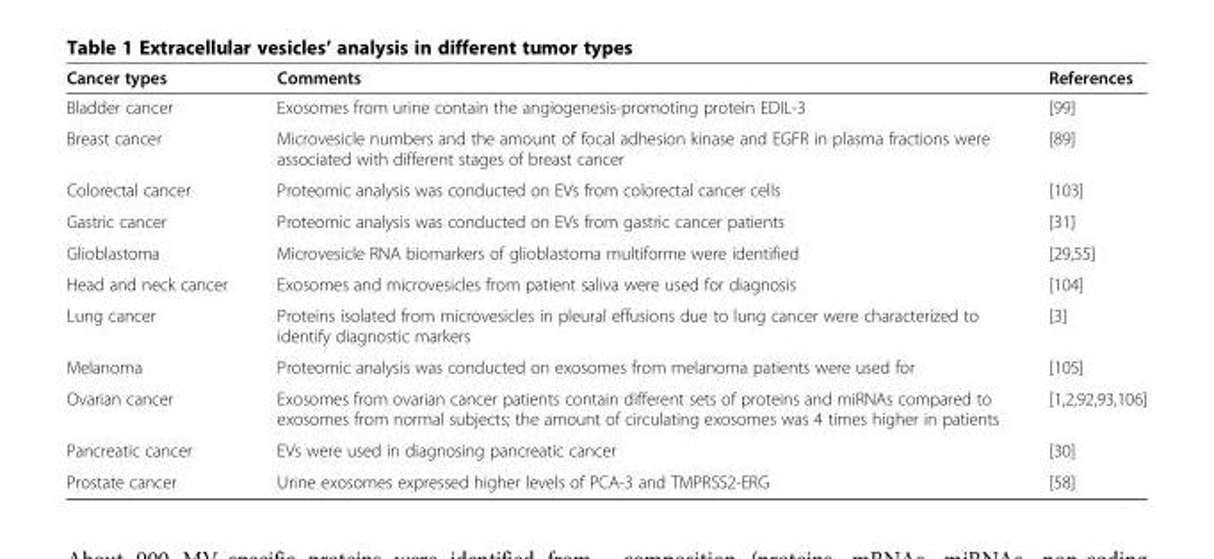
<table><thead><tr><td>Cancer types</td><td>Comments</td><td>References</td></tr></thead><tbody><tr><td>Bladder cancer</td><td>Exosomes from urine contain the angiogenesis-promoting protein EDIL-3</td><td>[99]</td></tr><tr><td>Breast cancer</td><td>Microvesicle numbers and the amount of focal adhesion kinase and EGFR in plasma fractions were associated with different stages of breast cancer</td><td>[89]</td></tr><tr><td>Colorectal cancer</td><td>Proteomic analysis was conducted on EVs from colorectal cancer cells</td><td>[103]</td></tr><tr><td>Gastric cancer</td><td>Proteomic analysis was conducted on EVs from gastric cancer patients</td><td>[31]</td></tr><tr><td>Glioblastoma</td><td>Microvesicle RNA biomarkers of glioblastoma multiforme were identified</td><td>[29,55]</td></tr><tr><td>Head and neck cancer</td><td>Exosomes and microvesicles from patient saliva were used for diagnosis</td><td>[104]</td></tr><tr><td>Lung cancer</td><td>Proteins isolated from microvesicles in pleural effusions due to lung cancer were characterized to identify diagnostic markers</td><td>[3]</td></tr><tr><td>Melanoma</td><td>Proteomic analysis was conducted on exosomes from melanoma patients were used for</td><td>[105]</td></tr><tr><td>Ovarian cancer</td><td>Exosomes from ovarian cancer patients contain different sets of proteins and miRNAs compared to exosomes from normal subjects; the amount of circulating exosomes was 4 times higher in patients</td><td>[1,2,92,93,106]</td></tr><tr><td>Pancreatic cancer</td><td>EVs were used in diagnosing pancreatic cancer</td><td>[30]</td></tr><tr><td>Prostate cancer</td><td>Urine exosomes expressed higher levels of PCA-3 and TMPRSS2-ERG</td><td>[58]</td></tr></tbody></table>